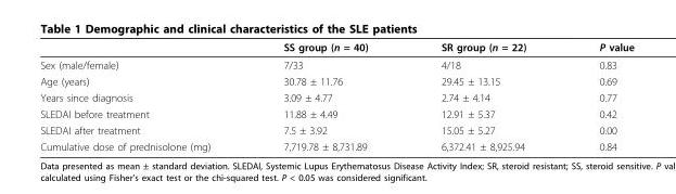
<table><thead><tr><td></td><td>SS group (n = 40)</td><td>SR group (n = 22)</td><td>P value</td></tr></thead><tbody><tr><td>Sex (male/female)</td><td>7/33</td><td>4/18</td><td>0.83</td></tr><tr><td>Age (years)</td><td>30.78 ± 11.76</td><td>29.45 ± 13.15</td><td>0.69</td></tr><tr><td>Years since diagnosis</td><td>3.09 ± 4.77</td><td>2.74 ± 4.14</td><td>0.77</td></tr><tr><td>SLEDAI before treatment</td><td>11.88 ± 4.49</td><td>12.91 ± 5.37</td><td>0.42</td></tr><tr><td>SLEDAI after treatment</td><td>7.5 ± 3.92</td><td>15.05 ± 5.27</td><td>0.00</td></tr><tr><td>Cumulative dose of prednisolone (mg)</td><td>7,719.78 ± 8,731.89</td><td>6,372.41 ± 8,925.94</td><td>0.84</td></tr></tbody></table>